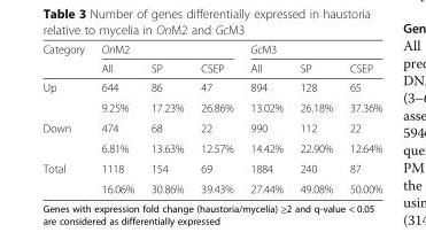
<table><thead><tr><td rowspan="2">Category</td><td colspan="3">OnM2</td><td colspan="3">GcM3</td></tr><tr><td>All</td><td>SP</td><td>CSEP</td><td>All</td><td>SP</td><td>CSEP</td></tr></thead><tbody><tr><td rowspan="2">Up</td><td>644</td><td>86</td><td>47</td><td>894</td><td>128</td><td>65</td></tr><tr><td>9.25%</td><td>17.23%</td><td>26.86%</td><td>13.02%</td><td>26.18%</td><td>37.36%</td></tr><tr><td rowspan="2">Down</td><td>474</td><td>68</td><td>22</td><td>990</td><td>112</td><td>22</td></tr><tr><td>6.81%</td><td>13.63%</td><td>12.57%</td><td>14.42%</td><td>22.90%</td><td>12.64%</td></tr><tr><td rowspan="2">Total</td><td>1118</td><td>154</td><td>69</td><td>1884</td><td>240</td><td>87</td></tr><tr><td>16.06%</td><td>30.86%</td><td>39.43%</td><td>27.44%</td><td>49.08%</td><td>50.00%</td></tr></tbody></table>